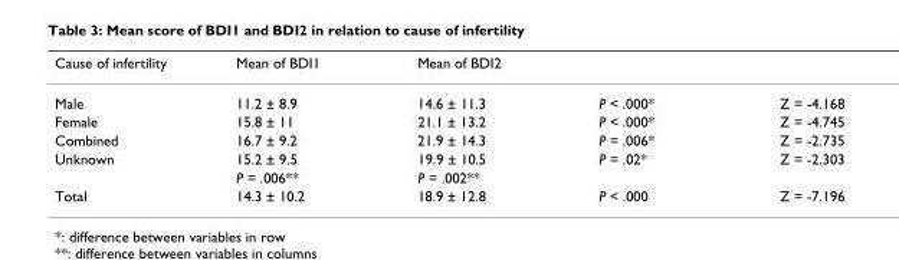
<table><thead><tr><td>Cause of infertility</td><td>Mean of BDI1</td><td>Mean of BDI2</td><td></td><td></td></tr></thead><tbody><tr><td>Male</td><td>11.2 ± 8.9</td><td>14.6 ± 11.3</td><td>P &lt; .000*</td><td>Z = -4.168</td></tr><tr><td>Female</td><td>15.8 ± 11</td><td>21.1 ± 13.2</td><td>P &lt; .000*</td><td>Z = -4.745</td></tr><tr><td>Combined</td><td>16.7 ± 9.2</td><td>21.9 ± 14.3</td><td>P = .006*</td><td>Z = -2.735</td></tr><tr><td rowspan="2">Unknown</td><td>15.2 ± 9.5</td><td>19.9 ± 10.5</td><td>P = .02*</td><td>Z = -2.303</td></tr><tr><td>P = .006**</td><td>P = .002**</td><td></td><td></td></tr><tr><td>Total</td><td>14.3 ± 10.2</td><td>18.9 ± 12.8</td><td>P &lt; .000</td><td>Z = -7.196</td></tr></tbody></table>